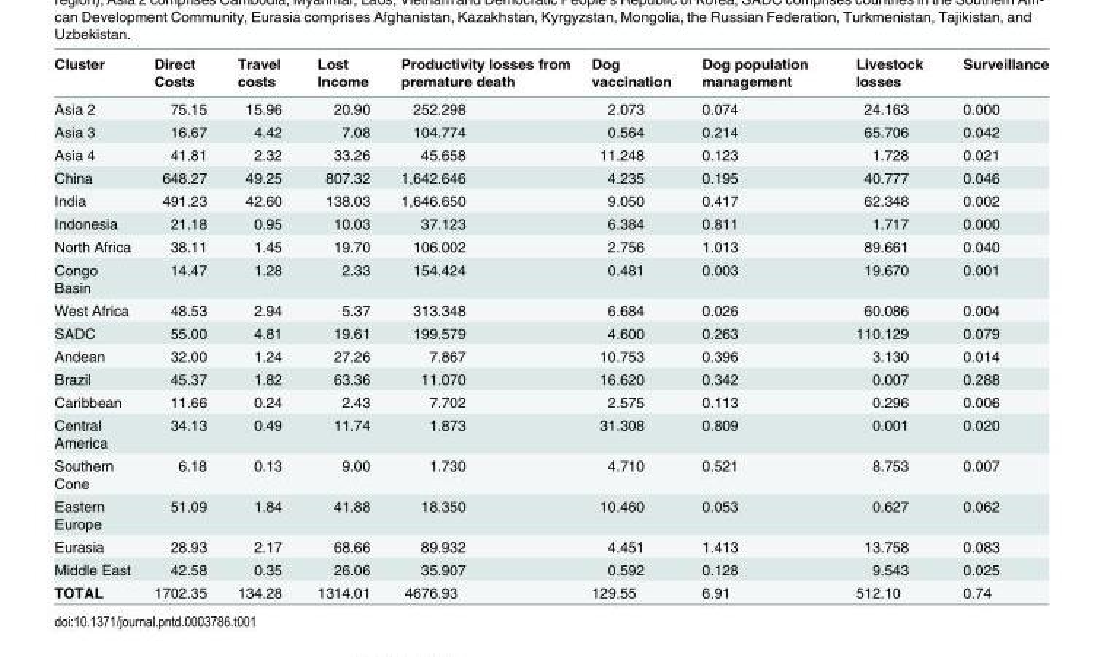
<table><thead><tr><td>Cluster</td><td>Direct Costs</td><td>Travel costs</td><td>Lost Income</td><td>Productivity losses from premature death</td><td>Dog vaccination</td><td>Dog population management</td><td>Livestock losses</td><td>Surveillance</td></tr></thead><tbody><tr><td>Asia 2</td><td>75.15</td><td>15.96</td><td>20.90</td><td>252.298</td><td>2.073</td><td>0.074</td><td>24.163</td><td>0.000</td></tr><tr><td>Asia 3</td><td>16.67</td><td>4.42</td><td>7.08</td><td>104.774</td><td>0.564</td><td>0.214</td><td>65.706</td><td>0.042</td></tr><tr><td>Asia 4</td><td>41.81</td><td>2.32</td><td>33.26</td><td>45.658</td><td>11.248</td><td>0.123</td><td>1.728</td><td>0.021</td></tr><tr><td>China</td><td>648.27</td><td>49.25</td><td>807.32</td><td>1,642.646</td><td>4.235</td><td>0.195</td><td>40.777</td><td>0.046</td></tr><tr><td>India</td><td>491.23</td><td>42.60</td><td>138.03</td><td>1,646.650</td><td>9.050</td><td>0.417</td><td>62.348</td><td>0.002</td></tr><tr><td>Indonesia</td><td>21.18</td><td>0.95</td><td>10.03</td><td>37.123</td><td>6.384</td><td>0.811</td><td>1.717</td><td>0.000</td></tr><tr><td>North Africa</td><td>38.11</td><td>1.45</td><td>19.70</td><td>106.002</td><td>2.756</td><td>1.013</td><td>89.661</td><td>0.040</td></tr><tr><td>Congo Basin</td><td>14.47</td><td>1.28</td><td>2.33</td><td>154.424</td><td>0.481</td><td>0.003</td><td>19.670</td><td>0.001</td></tr><tr><td>West Africa</td><td>48.53</td><td>2.94</td><td>5.37</td><td>313.348</td><td>6.684</td><td>0.026</td><td>60.086</td><td>0.004</td></tr><tr><td>SADC</td><td>55.00</td><td>4.81</td><td>19.61</td><td>199.579</td><td>4.600</td><td>0.263</td><td>110.129</td><td>0.079</td></tr><tr><td>Andean</td><td>32.00</td><td>1.24</td><td>27.26</td><td>7.867</td><td>10.753</td><td>0.396</td><td>3.130</td><td>0.014</td></tr><tr><td>Brazil</td><td>45.37</td><td>1.82</td><td>63.36</td><td>11.070</td><td>16.620</td><td>0.342</td><td>0.007</td><td>0.288</td></tr><tr><td>Caribbean</td><td>11.66</td><td>0.24</td><td>2.43</td><td>7.702</td><td>2.575</td><td>0.113</td><td>0.296</td><td>0.006</td></tr><tr><td>Central America</td><td>34.13</td><td>0.49</td><td>11.74</td><td>1.873</td><td>31.308</td><td>0.809</td><td>0.001</td><td>0.020</td></tr><tr><td>Southern Cone</td><td>6.18</td><td>0.13</td><td>9.00</td><td>1.730</td><td>4.710</td><td>0.521</td><td>8.753</td><td>0.007</td></tr><tr><td>Eastern Europe</td><td>51.09</td><td>1.84</td><td>41.88</td><td>18.350</td><td>10.460</td><td>0.053</td><td>0.627</td><td>0.062</td></tr><tr><td>Eurasia</td><td>28.93</td><td>2.17</td><td>68.66</td><td>89.932</td><td>4.451</td><td>1.413</td><td>13.758</td><td>0.083</td></tr><tr><td>Middle East</td><td>42.58</td><td>0.35</td><td>26.06</td><td>35.907</td><td>0.592</td><td>0.128</td><td>9.543</td><td>0.025</td></tr><tr><td>TOTAL</td><td>1702.35</td><td>134.28</td><td>1314.01</td><td>4676.93</td><td>129.55</td><td>6.91</td><td>512.10</td><td>0.74</td></tr></tbody></table>